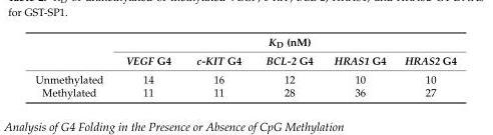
<table><thead><tr><td rowspan="2"></td><td colspan="5">K<sub>D</sub> (nM)</td></tr><tr><td>VEGF G4</td><td>c-KIT G4</td><td>BCL-2 G4</td><td>HRAS1 G4</td><td>HRAS2 G4</td></tr></thead><tbody><tr><td>Unmethylated</td><td>14</td><td>16</td><td>12</td><td>10</td><td>10</td></tr><tr><td>Methylated</td><td>11</td><td>11</td><td>28</td><td>36</td><td>27</td></tr></tbody></table>